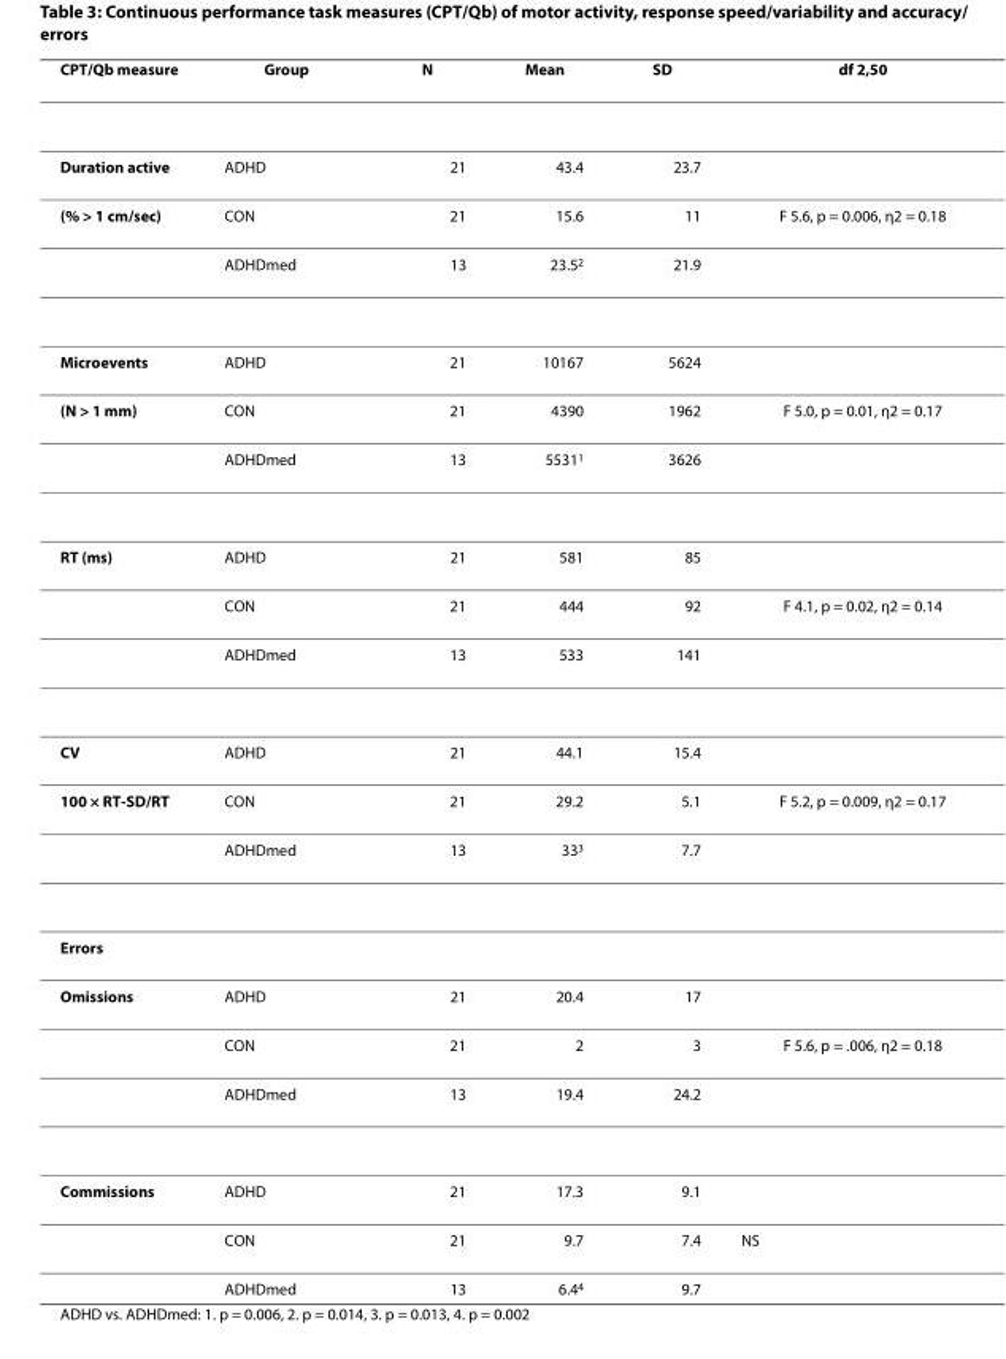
<table><thead><tr><td>CPT/Qb measure</td><td>Group</td><td>N</td><td>Mean</td><td>SD</td><td>df 2,50</td></tr></thead><tbody><tr><td>Duration active</td><td>ADHD</td><td>21</td><td>43.4</td><td>23.7</td><td></td></tr><tr><td rowspan="2">(% &gt; 1 cm/sec)</td><td>CON</td><td>21</td><td>15.6</td><td>11</td><td>F 5.6, p = 0.006, η2 = 0.18</td></tr><tr><td>ADHDmed</td><td>13</td><td>23.52</td><td>21.9</td><td></td></tr><tr><td>Microevents</td><td>ADHD</td><td>21</td><td>10167</td><td>5624</td><td></td></tr><tr><td rowspan="2">(N &gt; 1 mm)</td><td>CON</td><td>21</td><td>4390</td><td>1962</td><td>F 5.0, p = 0.01, η2 = 0.17</td></tr><tr><td>ADHDmed</td><td>13</td><td>55311</td><td>3626</td><td></td></tr><tr><td rowspan="3">RT (ms)</td><td>ADHD</td><td>21</td><td>581</td><td>85</td><td></td></tr><tr><td>CON</td><td>21</td><td>444</td><td>92</td><td>F 4.1, p = 0.02, η2 = 0.14</td></tr><tr><td>ADHDmed</td><td>13</td><td>533</td><td>141</td><td></td></tr><tr><td>CV</td><td>ADHD</td><td>21</td><td>44.1</td><td>15.4</td><td></td></tr><tr><td rowspan="2">100 × RT-SD/RT</td><td>CON</td><td>21</td><td>29.2</td><td>5.1</td><td>F 5.2, p = 0.009, η2 = 0.17</td></tr><tr><td>ADHDmed</td><td>13</td><td>333</td><td>7.7</td><td></td></tr><tr><td colspan="6">Errors</td></tr><tr><td rowspan="3">Omissions</td><td>ADHD</td><td>21</td><td>20.4</td><td>17</td><td></td></tr><tr><td>CON</td><td>21</td><td>2</td><td>3</td><td>F 5.6, p = .006, η2 = 0.18</td></tr><tr><td>ADHDmed</td><td>13</td><td>19.4</td><td>24.2</td><td></td></tr><tr><td rowspan="3">Commissions</td><td>ADHD</td><td>21</td><td>17.3</td><td>9.1</td><td></td></tr><tr><td>CON</td><td>21</td><td>9.7</td><td>7.4</td><td>NS</td></tr><tr><td>ADHDmed</td><td>13</td><td>6.44</td><td>9.7</td><td></td></tr></tbody></table>